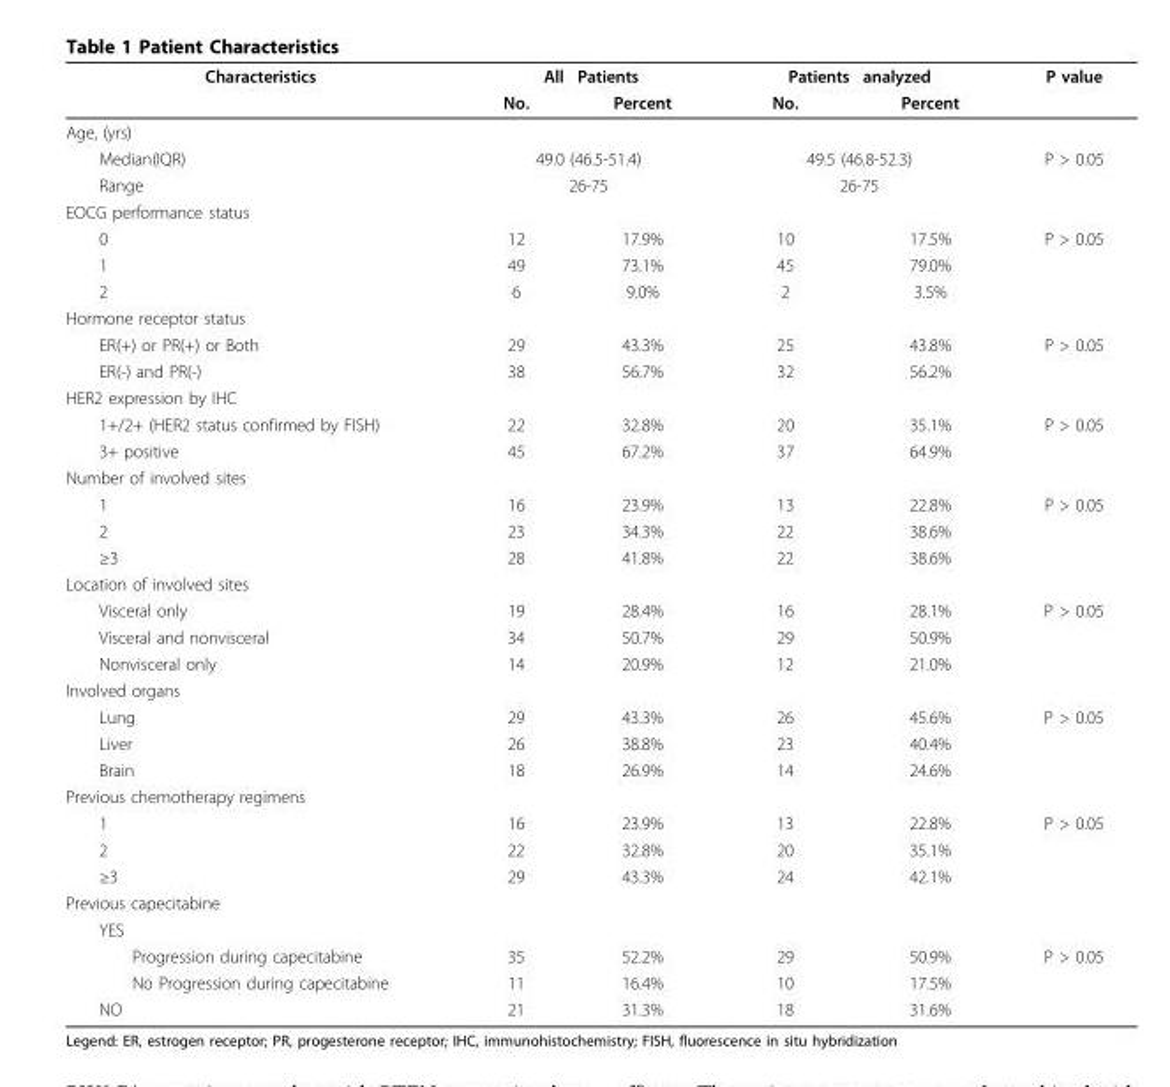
<table><thead><tr><td rowspan="2">Characteristics</td><td rowspan="2">All No.</td><td rowspan="2">Patients Percent</td><td rowspan="2">Patients No.</td><td rowspan="2">analyzed Percent</td><td rowspan="2">P value</td></tr><tr></tr></thead><tbody><tr><td colspan="6">Age, (yrs)</td></tr><tr><td>Median(IQR)</td><td colspan="2">49.0 (46.5-51.4)</td><td colspan="2">49.5 (46.8-52.3)</td><td>P &gt; 0.05</td></tr><tr><td>Range</td><td colspan="2">26-75</td><td colspan="2">26-75</td><td></td></tr><tr><td colspan="6">EOCG performance status</td></tr><tr><td>0</td><td>12</td><td>17.9%</td><td>10</td><td>17.5%</td><td>P &gt; 0.05</td></tr><tr><td>1</td><td>49</td><td>73.1%</td><td>45</td><td>79.0%</td><td></td></tr><tr><td>2</td><td>6</td><td>9.0%</td><td>2</td><td>3.5%</td><td></td></tr><tr><td colspan="6">Hormone receptor status</td></tr><tr><td>ER(+) or PR(+) or Both</td><td>29</td><td>43.3%</td><td>25</td><td>43.8%</td><td>P &gt; 0.05</td></tr><tr><td>ER(-) and PR(-)</td><td>38</td><td>56.7%</td><td>32</td><td>56.2%</td><td></td></tr><tr><td colspan="6">HER2 expression by IHC</td></tr><tr><td>1+/2+ (HER2 status confirmed by FISH)</td><td>22</td><td>32.8%</td><td>20</td><td>35.1%</td><td>P &gt; 0.05</td></tr><tr><td>3+ positive</td><td>45</td><td>67.2%</td><td>37</td><td>64.9%</td><td></td></tr><tr><td colspan="6">Number of involved sites</td></tr><tr><td>1</td><td>16</td><td>23.9%</td><td>13</td><td>22.8%</td><td>P &gt; 0.05</td></tr><tr><td>2</td><td>23</td><td>34.3%</td><td>22</td><td>38.6%</td><td></td></tr><tr><td>≥3</td><td>28</td><td>41.8%</td><td>22</td><td>38.6%</td><td></td></tr><tr><td colspan="6">Location of involved sites</td></tr><tr><td>Visceral only</td><td>19</td><td>28.4%</td><td>16</td><td>28.1%</td><td>P &gt; 0.05</td></tr><tr><td>Visceral and nonvisceral</td><td>34</td><td>50.7%</td><td>29</td><td>50.9%</td><td></td></tr><tr><td>Nonvisceral only</td><td>14</td><td>20.9%</td><td>12</td><td>21.0%</td><td></td></tr><tr><td colspan="6">Involved organs</td></tr><tr><td>Lung</td><td>29</td><td>43.3%</td><td>26</td><td>45.6%</td><td>P &gt; 0.05</td></tr><tr><td>Liver</td><td>26</td><td>38.8%</td><td>23</td><td>40.4%</td><td></td></tr><tr><td>Brain</td><td>18</td><td>26.9%</td><td>14</td><td>24.6%</td><td></td></tr><tr><td colspan="6">Previous chemotherapy regimens</td></tr><tr><td>1</td><td>16</td><td>23.9%</td><td>13</td><td>22.8%</td><td>P &gt; 0.05</td></tr><tr><td>2</td><td>22</td><td>32.8%</td><td>20</td><td>35.1%</td><td></td></tr><tr><td>≥3</td><td>29</td><td>43.3%</td><td>24</td><td>42.1%</td><td></td></tr><tr><td colspan="6">Previous capecitabine</td></tr><tr><td colspan="6">YES</td></tr><tr><td>Progression during capecitabine</td><td>35</td><td>52.2%</td><td>29</td><td>50.9%</td><td>P &gt; 0.05</td></tr><tr><td>No Progression during capecitabine</td><td>11</td><td>16.4%</td><td>10</td><td>17.5%</td><td></td></tr><tr><td>NO</td><td>21</td><td>31.3%</td><td>18</td><td>31.6%</td><td></td></tr></tbody></table>